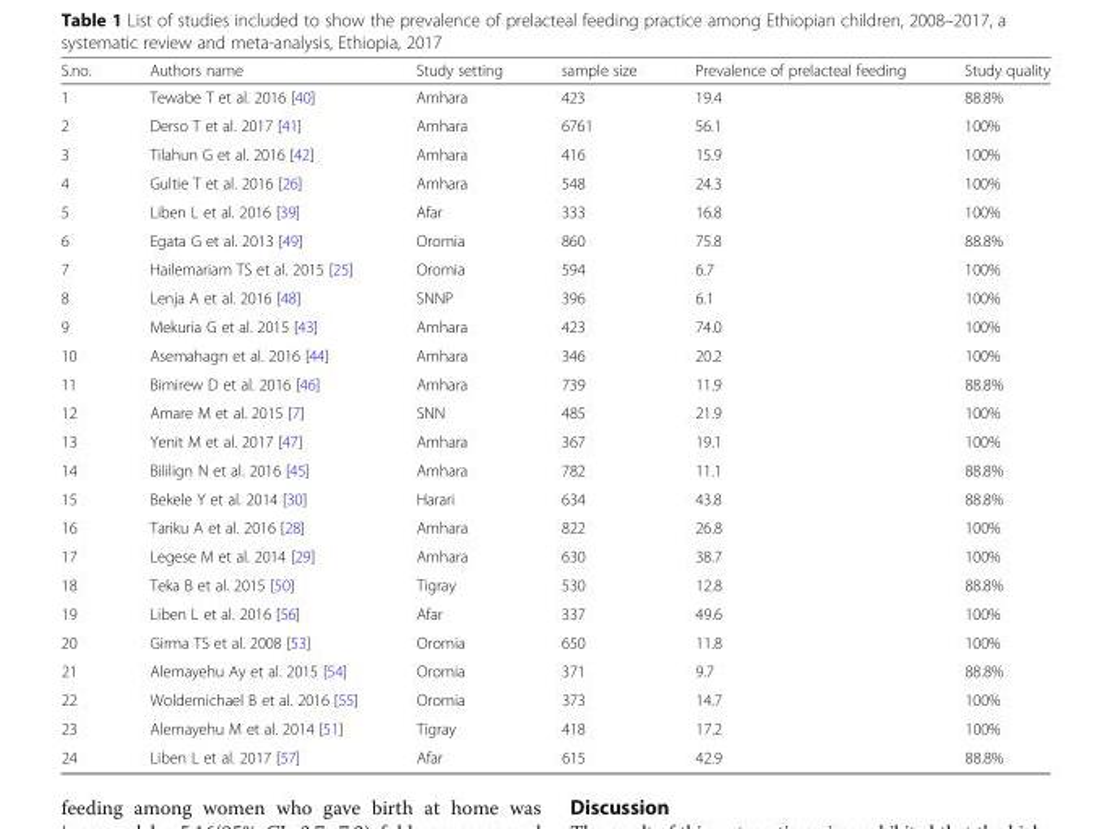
<table><thead><tr><td>S.no.</td><td>Authors name</td><td>Study setting</td><td>sample size</td><td>Prevalence of prelacteal feeding</td><td>Study quality</td></tr></thead><tbody><tr><td>1</td><td>Tewabe T et al. 2016 [40]</td><td>Amhara</td><td>423</td><td>19.4</td><td>88.8%</td></tr><tr><td>2</td><td>Derso T et al. 2017 [41]</td><td>Amhara</td><td>6761</td><td>56.1</td><td>100%</td></tr><tr><td>3</td><td>Tilahun G et al. 2016 [42]</td><td>Amhara</td><td>416</td><td>15.9</td><td>100%</td></tr><tr><td>4</td><td>Gultie T et al. 2016 [26]</td><td>Amhara</td><td>548</td><td>24.3</td><td>100%</td></tr><tr><td>5</td><td>Liben L et al. 2016 [39]</td><td>Afar</td><td>333</td><td>16.8</td><td>100%</td></tr><tr><td>6</td><td>Egata G et al. 2013 [49]</td><td>Oromia</td><td>860</td><td>75.8</td><td>88.8%</td></tr><tr><td>7</td><td>Hailemariam TS et al. 2015 [25]</td><td>Oromia</td><td>594</td><td>6.7</td><td>100%</td></tr><tr><td>8</td><td>Lenja A et al. 2016 [48]</td><td>SNNP</td><td>396</td><td>6.1</td><td>100%</td></tr><tr><td>9</td><td>Mekuria G et al. 2015 [43]</td><td>Amhara</td><td>423</td><td>74.0</td><td>100%</td></tr><tr><td>10</td><td>Asemahagn et al. 2016 [44]</td><td>Amhara</td><td>346</td><td>20.2</td><td>100%</td></tr><tr><td>11</td><td>Bimirew D et al. 2016 [46]</td><td>Amhara</td><td>739</td><td>11.9</td><td>88.8%</td></tr><tr><td>12</td><td>Amare M et al. 2015 [7]</td><td>SNN</td><td>485</td><td>21.9</td><td>100%</td></tr><tr><td>13</td><td>Yenit M et al. 2017 [47]</td><td>Amhara</td><td>367</td><td>19.1</td><td>100%</td></tr><tr><td>14</td><td>Bililign N et al. 2016 [45]</td><td>Amhara</td><td>782</td><td>11.1</td><td>88.8%</td></tr><tr><td>15</td><td>Bekele Y et al. 2014 [30]</td><td>Harari</td><td>634</td><td>43.8</td><td>88.8%</td></tr><tr><td>16</td><td>Tariku A et al. 2016 [28]</td><td>Amhara</td><td>822</td><td>26.8</td><td>100%</td></tr><tr><td>17</td><td>Legese M et al. 2014 [29]</td><td>Amhara</td><td>630</td><td>38.7</td><td>100%</td></tr><tr><td>18</td><td>Teka B et al. 2015 [50]</td><td>Tigray</td><td>530</td><td>12.8</td><td>88.8%</td></tr><tr><td>19</td><td>Liben L et al. 2016 [56]</td><td>Afar</td><td>337</td><td>49.6</td><td>100%</td></tr><tr><td>20</td><td>Girma TS et al. 2008 [53]</td><td>Oromia</td><td>650</td><td>11.8</td><td>100%</td></tr><tr><td>21</td><td>Alemayehu Ay et al. 2015 [54]</td><td>Oromia</td><td>371</td><td>9.7</td><td>88.8%</td></tr><tr><td>22</td><td>Woldemichael B et al. 2016 [55]</td><td>Oromia</td><td>373</td><td>14.7</td><td>100%</td></tr><tr><td>23</td><td>Alemayehu M et al. 2014 [51]</td><td>Tigray</td><td>418</td><td>17.2</td><td>100%</td></tr><tr><td>24</td><td>Liben L et al. 2017 [57]</td><td>Afar</td><td>615</td><td>42.9</td><td>88.8%</td></tr></tbody></table>